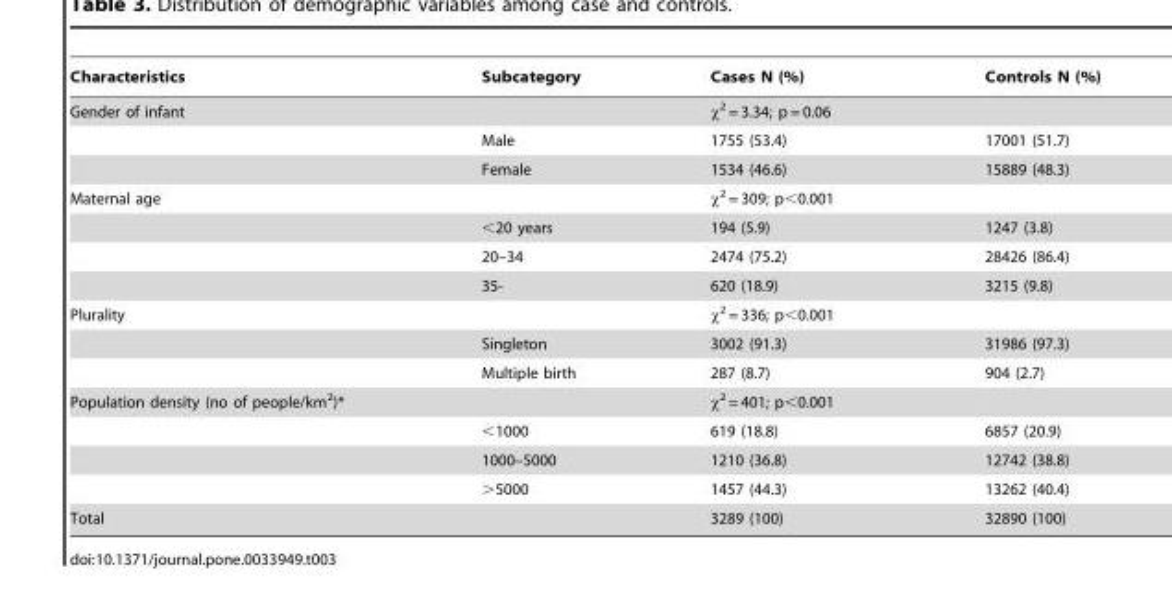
<table><thead><tr><td>Characteristics</td><td>Subcategory</td><td>Cases N (%)</td><td>Controls N (%)</td></tr></thead><tbody><tr><td rowspan="3">Gender of infant</td><td></td><td>χ<sup>2</sup> = 3.34; p = 0.06</td><td></td></tr><tr><td>Male</td><td>1755 (53.4)</td><td>17001 (51.7)</td></tr><tr><td>Female</td><td>1534 (46.6)</td><td>15889 (48.3)</td></tr><tr><td rowspan="4">Maternal age</td><td></td><td>χ<sup>2</sup> = 309; p&lt;0.001</td><td></td></tr><tr><td>&lt;20 years</td><td>194 (5.9)</td><td>1247 (3.8)</td></tr><tr><td>20–34</td><td>2474 (75.2)</td><td>28426 (86.4)</td></tr><tr><td>35-</td><td>620 (18.9)</td><td>3215 (9.8)</td></tr><tr><td rowspan="3">Plurality</td><td></td><td>χ<sup>2</sup> = 336; p&lt;0.001</td><td></td></tr><tr><td>Singleton</td><td>3002 (91.3)</td><td>31986 (97.3)</td></tr><tr><td>Multiple birth</td><td>287 (8.7)</td><td>904 (2.7)</td></tr><tr><td rowspan="4">Population density (no of people/km<sup>2</sup>)*</td><td></td><td>χ<sup>2</sup> = 401; p&lt;0.001</td><td></td></tr><tr><td>&lt;1000</td><td>619 (18.8)</td><td>6857 (20.9)</td></tr><tr><td>1000–5000</td><td>1210 (36.8)</td><td>12742 (38.8)</td></tr><tr><td>&gt;5000</td><td>1457 (44.3)</td><td>13262 (40.4)</td></tr><tr><td>Total</td><td></td><td>3289 (100)</td><td>32890 (100)</td></tr></tbody></table>